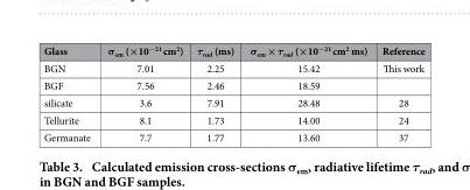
<table><thead><tr><td>Glass</td><td>σ<sub>em</sub> (×10<sup>−21</sup> cm<sup>2</sup>)</td><td>τ<sub>rad</sub> (ms)</td><td>σ<sub>em</sub> × τ<sub>rad</sub> (×10<sup>−21</sup> cm<sup>2</sup> ms)</td><td>Reference</td></tr></thead><tbody><tr><td>BGN</td><td>7.01</td><td>2.25</td><td>15.42</td><td>This work</td></tr><tr><td>BGF</td><td>7.56</td><td>2.46</td><td>18.59</td><td></td></tr><tr><td>silicate</td><td>3.6</td><td>7.91</td><td>28.48</td><td>28</td></tr><tr><td>Tellurite</td><td>8.1</td><td>1.73</td><td>14.00</td><td>24</td></tr><tr><td>Germanate</td><td>7.7</td><td>1.77</td><td>13.60</td><td>37</td></tr></tbody></table>